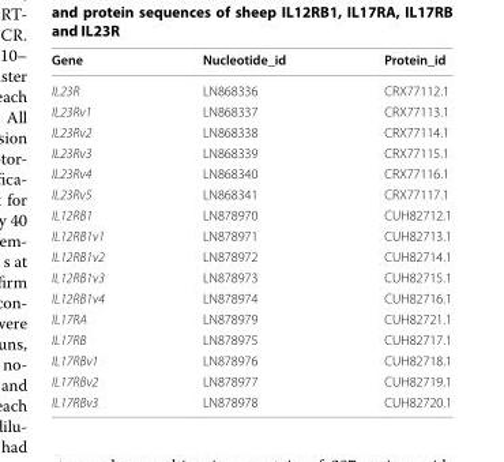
<table><thead><tr><td>Gene</td><td>Nucleotide_id</td><td>Protein_id</td></tr></thead><tbody><tr><td>IL23R</td><td>LN868336</td><td>CRX77112.1</td></tr><tr><td>IL23Rv1</td><td>LN868337</td><td>CRX77113.1</td></tr><tr><td>IL23Rv2</td><td>LN868338</td><td>CRX77114.1</td></tr><tr><td>IL23Rv3</td><td>LN868339</td><td>CRX77115.1</td></tr><tr><td>IL23Rv4</td><td>LN868340</td><td>CRX77116.1</td></tr><tr><td>IL23Rv5</td><td>LN868341</td><td>CRX77117.1</td></tr><tr><td>IL12RB1</td><td>LN878970</td><td>CUH82712.1</td></tr><tr><td>IL12RB1v1</td><td>LN878971</td><td>CUH82713.1</td></tr><tr><td>IL12RB1v2</td><td>LN878972</td><td>CUH82714.1</td></tr><tr><td>IL12RB1v3</td><td>LN878973</td><td>CUH82715.1</td></tr><tr><td>IL12RB1v4</td><td>LN878974</td><td>CUH82716.1</td></tr><tr><td>IL17RA</td><td>LN878979</td><td>CUH82721.1</td></tr><tr><td>IL17RB</td><td>LN878975</td><td>CUH82717.1</td></tr><tr><td>IL17RBv1</td><td>LN878976</td><td>CUH82718.1</td></tr><tr><td>IL17RBv2</td><td>LN878977</td><td>CUH82719.1</td></tr><tr><td>IL17RBv3</td><td>LN878978</td><td>CUH82720.1</td></tr></tbody></table>